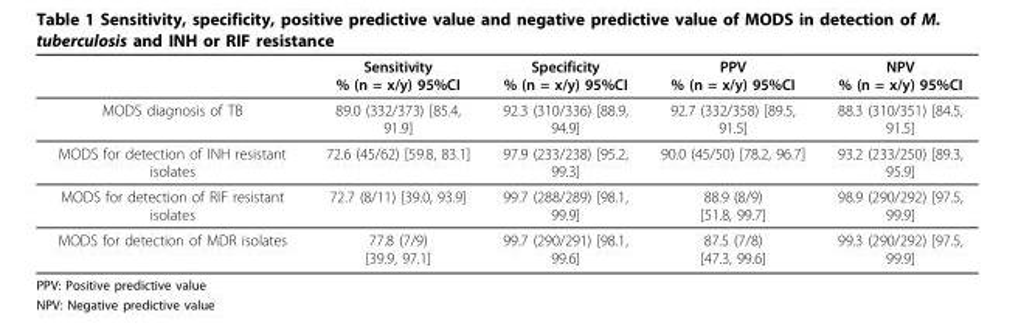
<table><thead><tr><td></td><td>Sensitivity % (n = x/y) 95%CI</td><td>Specificity % (n = x/y) 95%CI</td><td>PPV % (n = x/y) 95%CI</td><td>NPV % (n = x/y) 95%CI</td></tr></thead><tbody><tr><td>MODS diagnosis of TB</td><td>89.0 (332/373) [85.4, 91.9]</td><td>92.3 (310/336) [88.9, 94.9]</td><td>92.7 (332/358) [89.5, 91.5]</td><td>88.3 (310/351) [84.5, 91.5]</td></tr><tr><td>MODS for detection of INH resistant isolates</td><td>72.6 (45/62) [59.8, 83.1]</td><td>97.9 (233/238) [95.2, 99.3]</td><td>90.0 (45/50) [78.2, 96.7]</td><td>93.2 (233/250) [89.3, 95.9]</td></tr><tr><td>MODS for detection of RIF resistant isolates</td><td>72.7 (8/11) [39.0, 93.9]</td><td>99.7 (288/289) [98.1, 99.9]</td><td>88.9 (8/9) [51.8, 99.7]</td><td>98.9 (290/292) [97.5, 99.9]</td></tr><tr><td>MODS for detection of MDR isolates</td><td>77.8 (7/9) [39.9, 97.1]</td><td>99.7 (290/291) [98.1, 99.6]</td><td>87.5 (7/8) [47.3, 99.6]</td><td>99.3 (290/292) [97.5, 99.9]</td></tr></tbody></table>